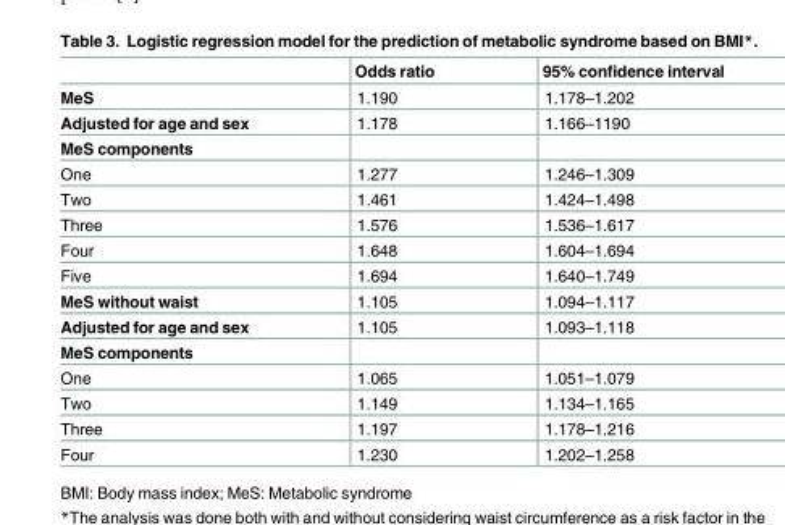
<table><thead><tr><td></td><td>Odds ratio</td><td>95% confidence interval</td></tr></thead><tbody><tr><td>MeS</td><td>1.190</td><td>1.178–1.202</td></tr><tr><td>Adjusted for age and sex</td><td>1.178</td><td>1.166–1190</td></tr><tr><td colspan="3">MeS components</td></tr><tr><td>One</td><td>1.277</td><td>1.246–1.309</td></tr><tr><td>Two</td><td>1.461</td><td>1.424–1.498</td></tr><tr><td>Three</td><td>1.576</td><td>1.536–1.617</td></tr><tr><td>Four</td><td>1.648</td><td>1.604–1.694</td></tr><tr><td>Five</td><td>1.694</td><td>1.640–1.749</td></tr><tr><td>MeS without waist</td><td>1.105</td><td>1.094–1.117</td></tr><tr><td>Adjusted for age and sex</td><td>1.105</td><td>1.093–1.118</td></tr><tr><td colspan="3">MeS components</td></tr><tr><td>One</td><td>1.065</td><td>1.051–1.079</td></tr><tr><td>Two</td><td>1.149</td><td>1.134–1.165</td></tr><tr><td>Three</td><td>1.197</td><td>1.178–1.216</td></tr><tr><td>Four</td><td>1.230</td><td>1.202–1.258</td></tr></tbody></table>